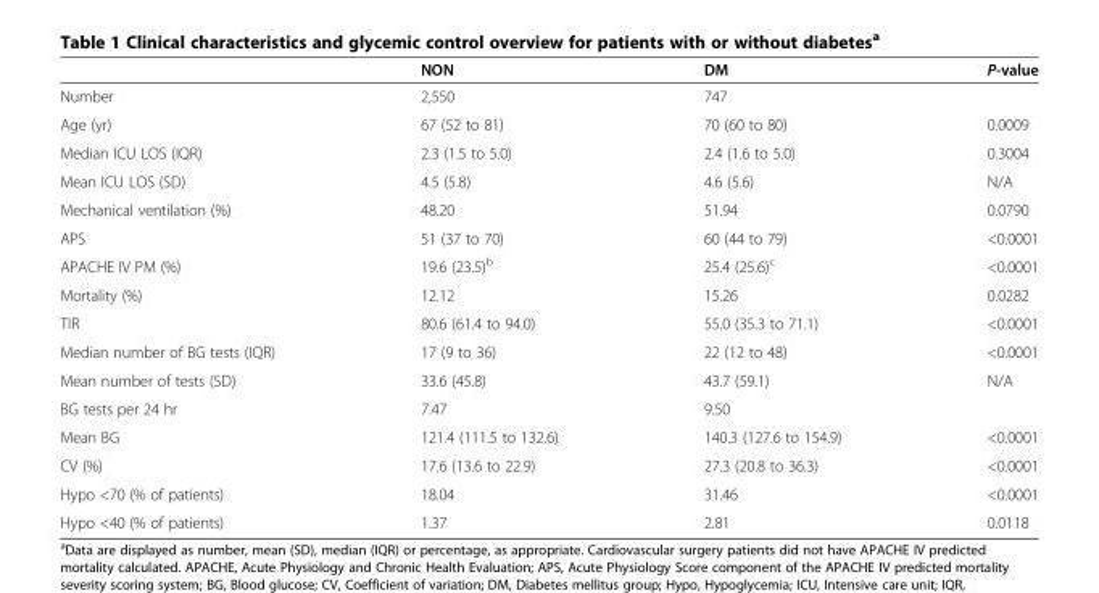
<table><thead><tr><td></td><td>NON</td><td>DM</td><td>P-value</td></tr></thead><tbody><tr><td>Number</td><td>2,550</td><td>747</td><td></td></tr><tr><td>Age (yr)</td><td>67 (52 to 81)</td><td>70 (60 to 80)</td><td>0.0009</td></tr><tr><td>Median ICU LOS (IQR)</td><td>2.3 (1.5 to 5.0)</td><td>2.4 (1.6 to 5.0)</td><td>0.3004</td></tr><tr><td>Mean ICU LOS (SD)</td><td>4.5 (5.8)</td><td>4.6 (5.6)</td><td>N/A</td></tr><tr><td>Mechanical ventilation (%)</td><td>48.20</td><td>51.94</td><td>0.0790</td></tr><tr><td>APS</td><td>51 (37 to 70)</td><td>60 (44 to 79)</td><td>&lt;0.0001</td></tr><tr><td>APACHE IV PM (%)</td><td>19.6 (23.5)<sup>b</sup></td><td>25.4 (25.6)<sup>c</sup></td><td>&lt;0.0001</td></tr><tr><td>Mortality (%)</td><td>12.12</td><td>15.26</td><td>0.0282</td></tr><tr><td>TIR</td><td>80.6 (61.4 to 94.0)</td><td>55.0 (35.3 to 71.1)</td><td>&lt;0.0001</td></tr><tr><td>Median number of BG tests (IQR)</td><td>17 (9 to 36)</td><td>22 (12 to 48)</td><td>&lt;0.0001</td></tr><tr><td>Mean number of tests (SD)</td><td>33.6 (45.8)</td><td>43.7 (59.1)</td><td>N/A</td></tr><tr><td>BG tests per 24 hr</td><td>7.47</td><td>9.50</td><td></td></tr><tr><td>Mean BG</td><td>121.4 (111.5 to 132.6)</td><td>140.3 (127.6 to 154.9)</td><td>&lt;0.0001</td></tr><tr><td>CV (%)</td><td>17.6 (13.6 to 22.9)</td><td>27.3 (20.8 to 36.3)</td><td>&lt;0.0001</td></tr><tr><td>Hypo &lt;70 (% of patients)</td><td>18.04</td><td>31.46</td><td>&lt;0.0001</td></tr><tr><td>Hypo &lt;40 (% of patients)</td><td>1.37</td><td>2.81</td><td>0.0118</td></tr></tbody></table>